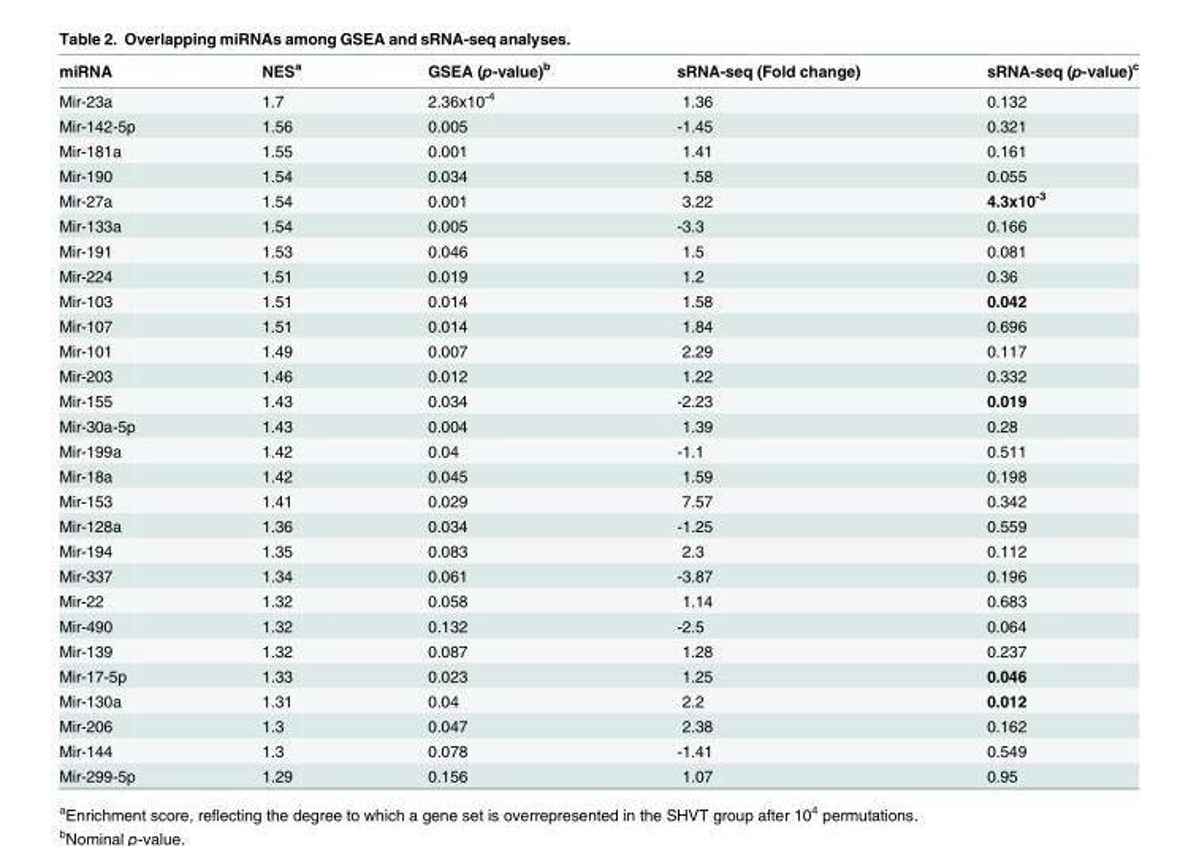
<table><thead><tr><td>miRNA</td><td>NES<sup>a</sup></td><td>GSEA (p-value)<sup>b</sup></td><td>sRNA-seq (Fold change)</td><td>sRNA-seq (p-value)<sup>c</sup></td></tr></thead><tbody><tr><td>Mir-23a</td><td>1.7</td><td>2.36x10<sup>-4</sup></td><td>1.36</td><td>0.132</td></tr><tr><td>Mir-142-5p</td><td>1.56</td><td>0.005</td><td>-1.45</td><td>0.321</td></tr><tr><td>Mir-181a</td><td>1.55</td><td>0.001</td><td>1.41</td><td>0.161</td></tr><tr><td>Mir-190</td><td>1.54</td><td>0.034</td><td>1.58</td><td>0.055</td></tr><tr><td>Mir-27a</td><td>1.54</td><td>0.001</td><td>3.22</td><td>4.3x10<sup>-3</sup></td></tr><tr><td>Mir-133a</td><td>1.54</td><td>0.005</td><td>-3.3</td><td>0.166</td></tr><tr><td>Mir-191</td><td>1.53</td><td>0.046</td><td>1.5</td><td>0.081</td></tr><tr><td>Mir-224</td><td>1.51</td><td>0.019</td><td>1.2</td><td>0.36</td></tr><tr><td>Mir-103</td><td>1.51</td><td>0.014</td><td>1.58</td><td>0.042</td></tr><tr><td>Mir-107</td><td>1.51</td><td>0.014</td><td>1.84</td><td>0.696</td></tr><tr><td>Mir-101</td><td>1.49</td><td>0.007</td><td>2.29</td><td>0.117</td></tr><tr><td>Mir-203</td><td>1.46</td><td>0.012</td><td>1.22</td><td>0.332</td></tr><tr><td>Mir-155</td><td>1.43</td><td>0.034</td><td>-2.23</td><td>0.019</td></tr><tr><td>Mir-30a-5p</td><td>1.43</td><td>0.004</td><td>1.39</td><td>0.28</td></tr><tr><td>Mir-199a</td><td>1.42</td><td>0.04</td><td>-1.1</td><td>0.511</td></tr><tr><td>Mir-18a</td><td>1.42</td><td>0.045</td><td>1.59</td><td>0.198</td></tr><tr><td>Mir-153</td><td>1.41</td><td>0.029</td><td>7.57</td><td>0.342</td></tr><tr><td>Mir-128a</td><td>1.36</td><td>0.034</td><td>-1.25</td><td>0.559</td></tr><tr><td>Mir-194</td><td>1.35</td><td>0.083</td><td>2.3</td><td>0.112</td></tr><tr><td>Mir-337</td><td>1.34</td><td>0.061</td><td>-3.87</td><td>0.196</td></tr><tr><td>Mir-22</td><td>1.32</td><td>0.058</td><td>1.14</td><td>0.683</td></tr><tr><td>Mir-490</td><td>1.32</td><td>0.132</td><td>-2.5</td><td>0.064</td></tr><tr><td>Mir-139</td><td>1.32</td><td>0.087</td><td>1.28</td><td>0.237</td></tr><tr><td>Mir-17-5p</td><td>1.33</td><td>0.023</td><td>1.25</td><td>0.046</td></tr><tr><td>Mir-130a</td><td>1.31</td><td>0.04</td><td>2.2</td><td>0.012</td></tr><tr><td>Mir-206</td><td>1.3</td><td>0.047</td><td>2.38</td><td>0.162</td></tr><tr><td>Mir-144</td><td>1.3</td><td>0.078</td><td>-1.41</td><td>0.549</td></tr><tr><td>Mir-299-5p</td><td>1.29</td><td>0.156</td><td>1.07</td><td>0.95</td></tr></tbody></table>